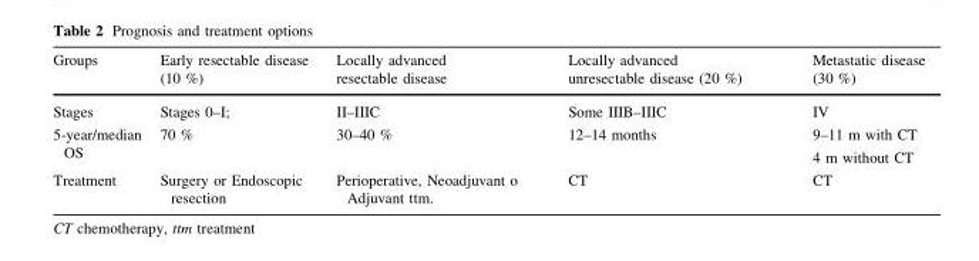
<table><thead><tr><td>Groups</td><td>Early resectable disease (10 %)</td><td>Locally advanced resectable disease</td><td>Locally advanced unresectable disease (20 %)</td><td>Metastatic disease (30 %)</td></tr></thead><tbody><tr><td>Stages</td><td>Stages 0–I;</td><td>II–IIIC</td><td>Some IIIB–IIIC</td><td>IV</td></tr><tr><td>5-year/median OS</td><td>70 %</td><td>30–40 %</td><td>12–14 months</td><td>9–11 m with CT 4 m without CT</td></tr><tr><td>Treatment</td><td>Surgery or Endoscopic resection</td><td>Perioperative, Neoadjuvant o Adjuvant ttm.</td><td>CT</td><td>CT</td></tr></tbody></table>